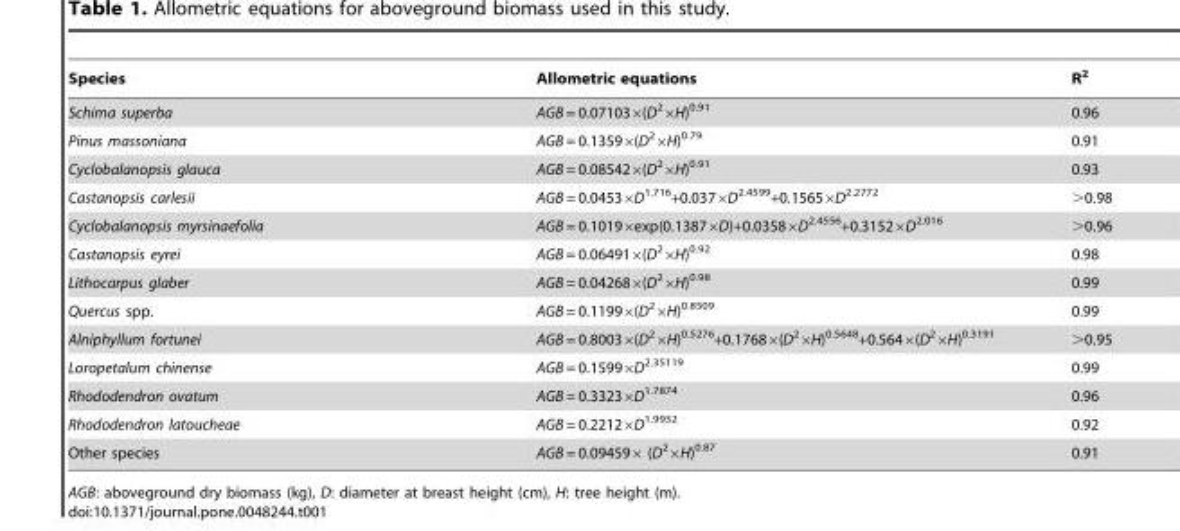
<table><thead><tr><td>Species</td><td>Allometric equations</td><td>R<sup>2</sup></td></tr></thead><tbody><tr><td>Schima superba</td><td>AGB = 0.07103×(D<sup>2</sup>×H)<sup>0.91</sup></td><td>0.96</td></tr><tr><td>Pinus massoniana</td><td>AGB = 0.1359×(D<sup>2</sup>×H)<sup>0.79</sup></td><td>0.91</td></tr><tr><td>Cyclobalanopsis glauca</td><td>AGB = 0.08542×(D<sup>2</sup>×H)<sup>0.91</sup></td><td>0.93</td></tr><tr><td>Castanopsis carlesii</td><td>AGB = 0.0453×D<sup>1.716</sup>+0.037×D<sup>2.4599</sup>+0.1565×D<sup>2.2772</sup></td><td>&gt;0.98</td></tr><tr><td>Cyclobalanopsis myrsinaefolia</td><td>AGB = 0.1019×exp(0.1387×D)+0.0358×D<sup>2.4556</sup>+0.3152×D<sup>2.016</sup></td><td>&gt;0.96</td></tr><tr><td>Castanopsis eyrei</td><td>AGB = 0.06491×(D<sup>2</sup>×H)<sup>0.92</sup></td><td>0.98</td></tr><tr><td>Lithocarpus glaber</td><td>AGB = 0.04268×(D<sup>2</sup>×H)<sup>0.98</sup></td><td>0.99</td></tr><tr><td>Quercus spp.</td><td>AGB = 0.1199×(D<sup>2</sup>×H)<sup>0.8509</sup></td><td>0.99</td></tr><tr><td>Alniphyllum fortunei</td><td>AGB = 0.8003×(D<sup>2</sup>×H)<sup>0.5276</sup>+0.1768×(D<sup>2</sup>×H)<sup>0.5648</sup>+0.564×(D<sup>2</sup>×H)<sup>0.3191</sup></td><td>&gt;0.95</td></tr><tr><td>Loropetalum chinense</td><td>AGB = 0.1599×D<sup>2.35119</sup></td><td>0.99</td></tr><tr><td>Rhododendron ovatum</td><td>AGB = 0.3323×D<sup>1.7874</sup></td><td>0.96</td></tr><tr><td>Rhododendron latoucheae</td><td>AGB = 0.2212×D<sup>1.9932</sup></td><td>0.92</td></tr><tr><td>Other species</td><td>AGB = 0.09459× (D<sup>2</sup>×H)<sup>0.87</sup></td><td>0.91</td></tr></tbody></table>